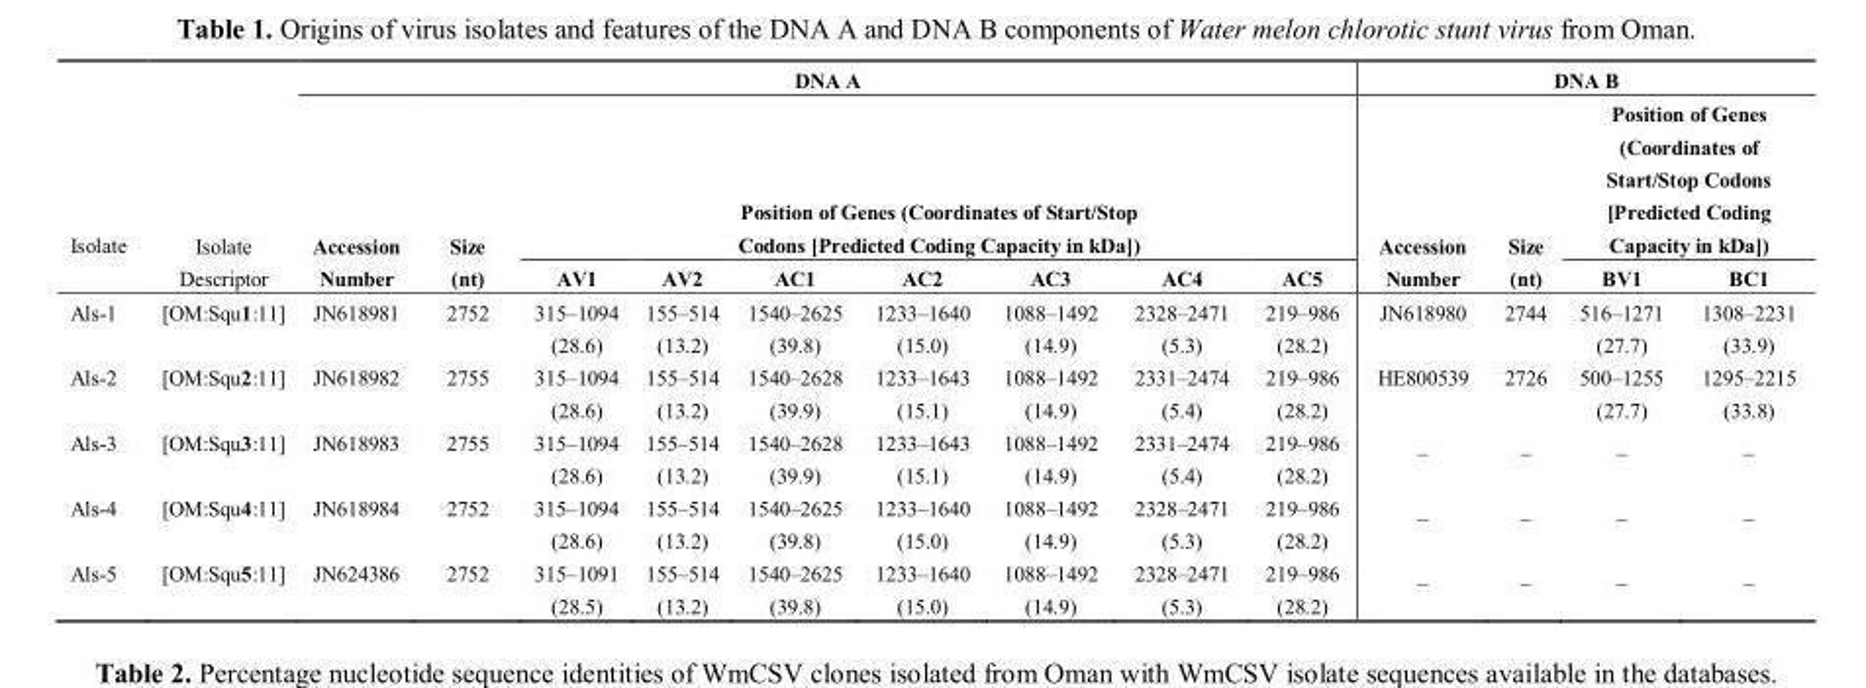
<table><tbody><tr><td rowspan="3">Isolate</td><td rowspan="3">Isolate Descriptor</td><td colspan="9">DNA A</td><td colspan="4">DNA B</td></tr><tr><td rowspan="2">Accession Number</td><td rowspan="2">Size (nt)</td><td colspan="7">Position of Genes (Coordinates of Start/Stop Codons [Predicted Coding Capacity in kDa])</td><td rowspan="2">Accession Number</td><td rowspan="2">Size (nt)</td><td colspan="2">Position of Genes (Coordinates of Start/Stop Codons [Predicted Coding Capacity in kDa])</td></tr><tr><td>AV1</td><td>AV2</td><td>AC1</td><td>AC2</td><td>AC3</td><td>AC4</td><td>AC5</td><td>BV1</td><td>BC1</td></tr><tr><td>Als-1</td><td>[OM:Squ1:11]</td><td>JN618981</td><td>2752</td><td>315–1094 (28.6)</td><td>155–514 (13.2)</td><td>1540–2625 (39.8)</td><td>1233–1640 (15.0)</td><td>1088–1492 (14.9)</td><td>2328–2471 (5.3)</td><td>219–986 (28.2)</td><td>JN618980</td><td>2744</td><td>516–1271 (27.7)</td><td>1308–2231 (33.9)</td></tr><tr><td>Als-2</td><td>[OM:Squ2:11]</td><td>JN618982</td><td>2755</td><td>315–1094 (28.6)</td><td>155–514 (13.2)</td><td>1540–2628 (39.9)</td><td>1233–1643 (15.1)</td><td>1088–1492 (14.9)</td><td>2331–2474 (5.4)</td><td>219–986 (28.2)</td><td>HE800539</td><td>2726</td><td>500–1255 (27.7)</td><td>1295–2215 (33.8)</td></tr><tr><td>Als-3</td><td>[OM:Squ3:11]</td><td>JN618983</td><td>2755</td><td>315–1094 (28.6)</td><td>155–514 (13.2)</td><td>1540–2628 (39.9)</td><td>1233–1643 (15.1)</td><td>1088–1492 (14.9)</td><td>2331–2474 (5.4)</td><td>219–986 (28.2)</td><td>_</td><td>_</td><td>_</td><td>_</td></tr><tr><td>Als-4</td><td>[OM:Squ4:11]</td><td>JN618984</td><td>2752</td><td>315–1094 (28.6)</td><td>155–514 (13.2)</td><td>1540–2625 (39.8)</td><td>1233–1640 (15.0)</td><td>1088–1492 (14.9)</td><td>2328–2471 (5.3)</td><td>219–986 (28.2)</td><td>_</td><td>_</td><td>_</td><td>_</td></tr><tr><td>Als-5</td><td>[OM:Squ5:11]</td><td>JN624386</td><td>2752</td><td>315–1091 (28.5)</td><td>155–514 (13.2)</td><td>1540–2625 (39.8)</td><td>1233–1640 (15.0)</td><td>1088–1492 (14.9)</td><td>2328–2471 (5.3)</td><td>219–986 (28.2)</td><td>_</td><td>_</td><td>_</td><td>_</td></tr></tbody></table>